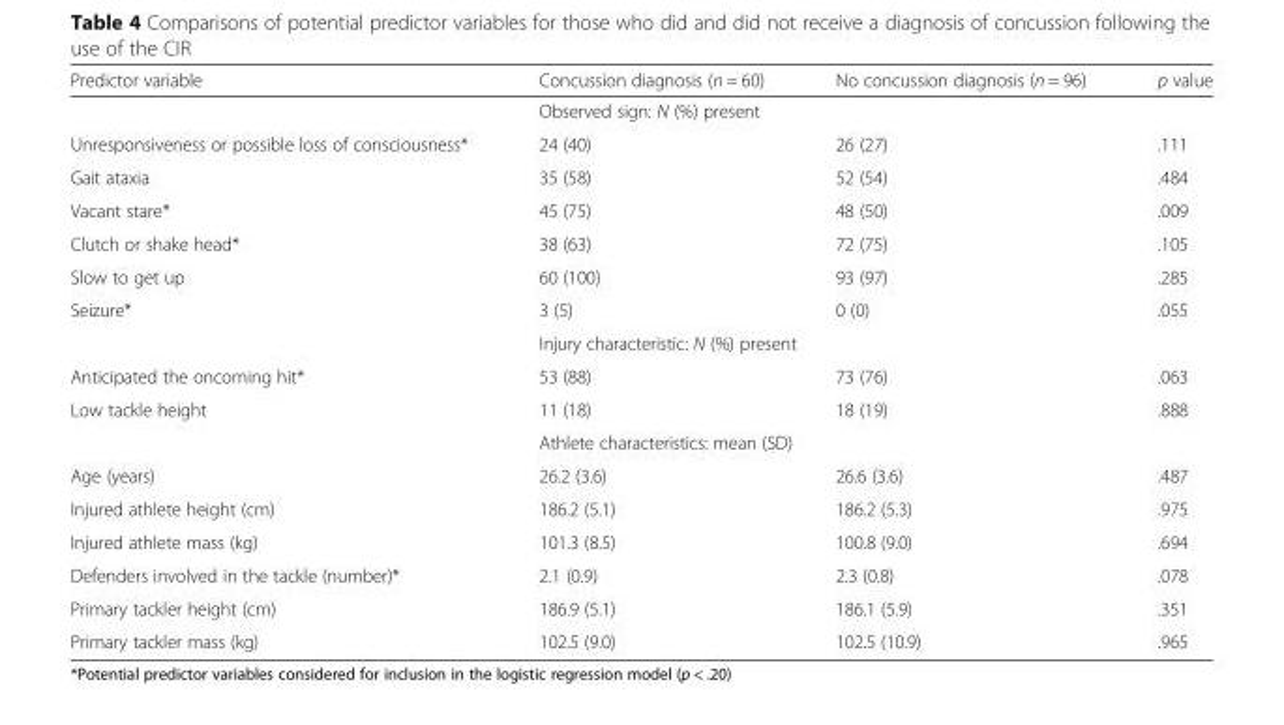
<table><thead><tr><td>Predictor variable</td><td>Concussion diagnosis (n = 60)</td><td>No concussion diagnosis (n = 96)</td><td>p value</td></tr></thead><tbody><tr><td></td><td colspan="2">Observed sign: N (%) present</td><td></td></tr><tr><td>Unresponsiveness or possible loss of consciousness*</td><td>24 (40)</td><td>26 (27)</td><td>.111</td></tr><tr><td>Gait ataxia</td><td>35 (58)</td><td>52 (54)</td><td>.484</td></tr><tr><td>Vacant stare*</td><td>45 (75)</td><td>48 (50)</td><td>.009</td></tr><tr><td>Clutch or shake head*</td><td>38 (63)</td><td>72 (75)</td><td>.105</td></tr><tr><td>Slow to get up</td><td>60 (100)</td><td>93 (97)</td><td>.285</td></tr><tr><td rowspan="2">Seizure*</td><td>3 (5)</td><td>0 (0)</td><td>.055</td></tr><tr><td colspan="2">Injury characteristic: N (%) present</td><td></td></tr><tr><td>Anticipated the oncoming hit*</td><td>53 (88)</td><td>73 (76)</td><td>.063</td></tr><tr><td rowspan="2">Low tackle height</td><td>11 (18)</td><td>18 (19)</td><td>.888</td></tr><tr><td colspan="2">Athlete characteristics: mean (SD)</td><td></td></tr><tr><td>Age (years)</td><td>26.2 (3.6)</td><td>26.6 (3.6)</td><td>.487</td></tr><tr><td>Injured athlete height (cm)</td><td>186.2 (5.1)</td><td>186.2 (5.3)</td><td>.975</td></tr><tr><td>Injured athlete mass (kg)</td><td>101.3 (8.5)</td><td>100.8 (9.0)</td><td>.694</td></tr><tr><td>Defenders involved in the tackle (number)*</td><td>2.1 (0.9)</td><td>2.3 (0.8)</td><td>.078</td></tr><tr><td>Primary tackler height (cm)</td><td>186.9 (5.1)</td><td>186.1 (5.9)</td><td>.351</td></tr><tr><td>Primary tackler mass (kg)</td><td>102.5 (9.0)</td><td>102.5 (10.9)</td><td>.965</td></tr></tbody></table>